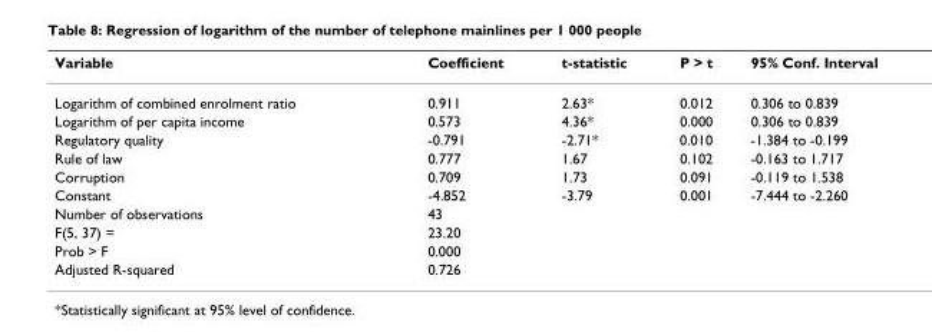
<table><thead><tr><td>Variable</td><td>Coefficient</td><td>t-statistic</td><td>P &gt; t</td><td>95% Conf. Interval</td></tr></thead><tbody><tr><td>Logarithm of combined enrolment ratio</td><td>0.911</td><td>2.63*</td><td>0.012</td><td>0.306 to 0.839</td></tr><tr><td>Logarithm of per capita income</td><td>0.573</td><td>4.36*</td><td>0.000</td><td>0.306 to 0.839</td></tr><tr><td>Regulatory quality</td><td>-0.791</td><td>-2.71*</td><td>0.010</td><td>-1.384 to -0.199</td></tr><tr><td>Rule of law</td><td>0.777</td><td>1.67</td><td>0.102</td><td>-0.163 to 1.717</td></tr><tr><td>Corruption</td><td>0.709</td><td>1.73</td><td>0.091</td><td>-0.119 to 1.538</td></tr><tr><td>Constant</td><td>-4.852</td><td>-3.79</td><td>0.001</td><td>-7.444 to -2.260</td></tr><tr><td>Number of observations</td><td colspan="4">43</td></tr><tr><td>F(5, 37) =</td><td colspan="4">23.20</td></tr><tr><td>Prob &gt; F</td><td colspan="4">0.000</td></tr><tr><td>Adjusted R-squared</td><td colspan="4">0.726</td></tr></tbody></table>